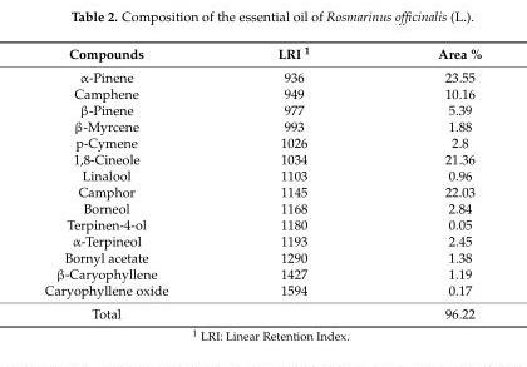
<table><thead><tr><td>Compounds</td><td>LRI <sup>1</sup></td><td>Area %</td></tr></thead><tbody><tr><td>α-Pinene</td><td>936</td><td>23.55</td></tr><tr><td>Camphene</td><td>949</td><td>10.16</td></tr><tr><td>β-Pinene</td><td>977</td><td>5.39</td></tr><tr><td>β-Myrcene</td><td>993</td><td>1.88</td></tr><tr><td>p-Cymene</td><td>1026</td><td>2.8</td></tr><tr><td>1,8-Cineole</td><td>1034</td><td>21.36</td></tr><tr><td>Linalool</td><td>1103</td><td>0.96</td></tr><tr><td>Camphor</td><td>1145</td><td>22.03</td></tr><tr><td>Borneol</td><td>1168</td><td>2.84</td></tr><tr><td>Terpinen-4-ol</td><td>1180</td><td>0.05</td></tr><tr><td>α-Terpineol</td><td>1193</td><td>2.45</td></tr><tr><td>Bornyl acetate</td><td>1290</td><td>1.38</td></tr><tr><td>β-Caryophyllene</td><td>1427</td><td>1.19</td></tr><tr><td>Caryophyllene oxide</td><td>1594</td><td>0.17</td></tr><tr><td>Total</td><td></td><td>96.22</td></tr></tbody></table>